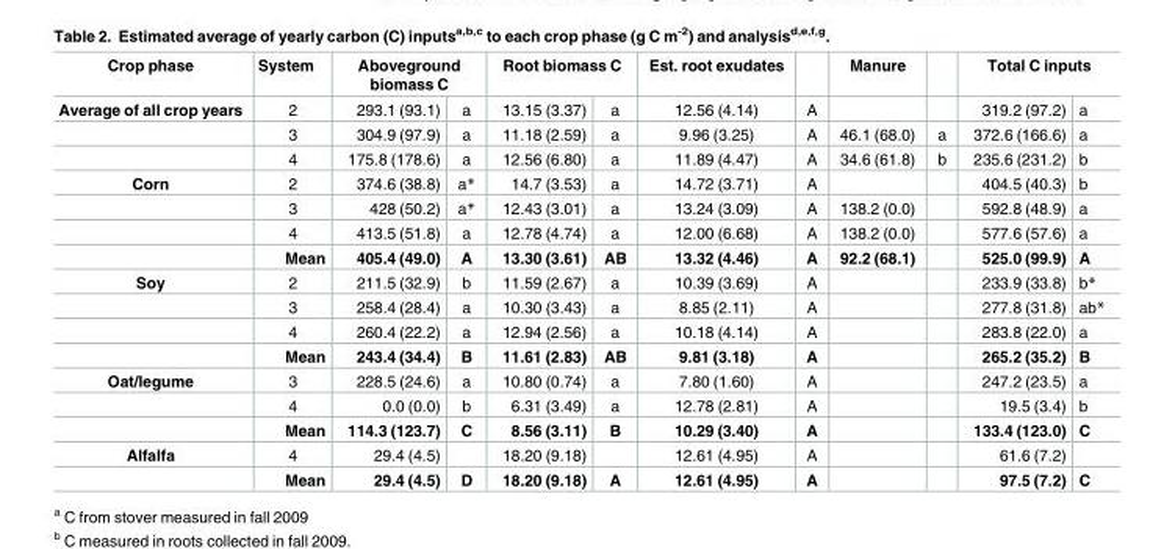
<table><thead><tr><td rowspan="2">Crop phase Average of all crop years</td><td rowspan="2">System 2</td><td colspan="2">Aboveground biomass C</td><td colspan="2">Root biomass C</td><td rowspan="2">Est. root exudates 12.56 (4.14)</td><td rowspan="2">A</td><td rowspan="2">Manure</td><td rowspan="2"></td><td colspan="2">Total C inputs</td></tr><tr><td>293.1 (93.1)</td><td>a</td><td>13.15 (3.37)</td><td>a</td><td>319.2 (97.2)</td><td>a</td></tr></thead><tbody><tr><td></td><td>3</td><td>304.9 (97.9)</td><td>a</td><td>11.18 (2.59)</td><td>a</td><td>9.96 (3.25)</td><td>A</td><td>46.1 (68.0)</td><td>a</td><td>372.6 (166.6)</td><td>a</td></tr><tr><td></td><td>4</td><td>175.8 (178.6)</td><td>a</td><td>12.56 (6.80)</td><td>a</td><td>11.89 (4.47)</td><td>A</td><td>34.6 (61.8)</td><td>b</td><td>235.6 (231.2)</td><td>b</td></tr><tr><td rowspan="4">Corn</td><td>2</td><td>374.6 (38.8)</td><td>a*</td><td>14.7 (3.53)</td><td>a</td><td>14.72 (3.71)</td><td>A</td><td></td><td></td><td>404.5 (40.3)</td><td>b</td></tr><tr><td>3</td><td>428 (50.2)</td><td>a*</td><td>12.43 (3.01)</td><td>a</td><td>13.24 (3.09)</td><td>A</td><td>138.2 (0.0)</td><td></td><td>592.8 (48.9)</td><td>a</td></tr><tr><td>4</td><td>413.5 (51.8)</td><td>a</td><td>12.78 (4.74)</td><td>a</td><td>12.00 (6.68)</td><td>A</td><td>138.2 (0.0)</td><td></td><td>577.6 (57.6)</td><td>a</td></tr><tr><td>Mean</td><td>405.4 (49.0)</td><td>A</td><td>13.30 (3.61)</td><td>AB</td><td>13.32 (4.46)</td><td>A</td><td>92.2 (68.1)</td><td></td><td>525.0 (99.9)</td><td>A</td></tr><tr><td rowspan="4">Soy</td><td>2</td><td>211.5 (32.9)</td><td>b</td><td>11.59 (2.67)</td><td>a</td><td>10.39 (3.69)</td><td>A</td><td></td><td></td><td>233.9 (33.8)</td><td>b*</td></tr><tr><td>3</td><td>258.4 (28.4)</td><td>a</td><td>10.30 (3.43)</td><td>a</td><td>8.85 (2.11)</td><td>A</td><td></td><td></td><td>277.8 (31.8)</td><td>ab*</td></tr><tr><td>4</td><td>260.4 (22.2)</td><td>a</td><td>12.94 (2.56)</td><td>a</td><td>10.18 (4.14)</td><td>A</td><td></td><td></td><td>283.8 (22.0)</td><td>a</td></tr><tr><td>Mean</td><td>243.4 (34.4)</td><td>B</td><td>11.61 (2.83)</td><td>AB</td><td>9.81 (3.18)</td><td>A</td><td></td><td></td><td>265.2 (35.2)</td><td>B</td></tr><tr><td rowspan="3">Oat/legume</td><td>3</td><td>228.5 (24.6)</td><td>a</td><td>10.80 (0.74)</td><td>a</td><td>7.80 (1.60)</td><td>A</td><td></td><td></td><td>247.2 (23.5)</td><td>a</td></tr><tr><td>4</td><td>0.0 (0.0)</td><td>b</td><td>6.31 (3.49)</td><td>a</td><td>12.78 (2.81)</td><td>A</td><td></td><td></td><td>19.5 (3.4)</td><td>b</td></tr><tr><td>Mean</td><td>114.3 (123.7)</td><td>C</td><td>8.56 (3.11)</td><td>B</td><td>10.29 (3.40)</td><td>A</td><td></td><td></td><td>133.4 (123.0)</td><td>C</td></tr><tr><td rowspan="2">Alfalfa</td><td>4</td><td>29.4 (4.5)</td><td></td><td>18.20 (9.18)</td><td></td><td>12.61 (4.95)</td><td>A</td><td></td><td></td><td>61.6 (7.2)</td><td></td></tr><tr><td>Mean</td><td>29.4 (4.5)</td><td>D</td><td>18.20 (9.18)</td><td>A</td><td>12.61 (4.95)</td><td>A</td><td></td><td></td><td>97.5 (7.2)</td><td>C</td></tr></tbody></table>